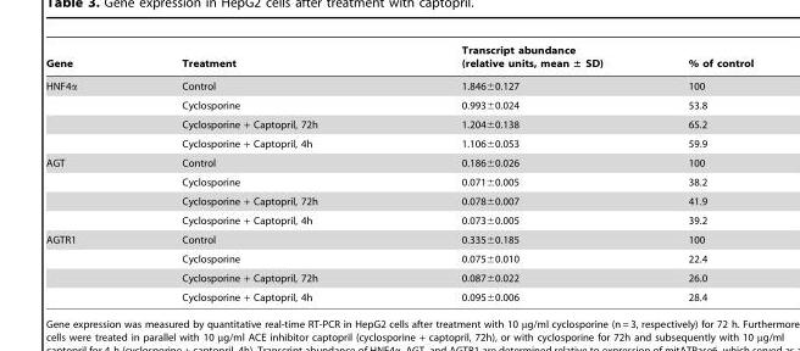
<table><thead><tr><td>Gene</td><td>Treatment</td><td>Transcript abundance (relative units, mean ± SD)</td><td>% of control</td></tr></thead><tbody><tr><td rowspan="4">HNF4α</td><td>Control</td><td>1.846±0.127</td><td>100</td></tr><tr><td>Cyclosporine</td><td>0.993±0.024</td><td>53.8</td></tr><tr><td>Cyclosporine + Captopril, 72h</td><td>1.204±0.138</td><td>65.2</td></tr><tr><td>Cyclosporine + Captopril, 4h</td><td>1.106±0.053</td><td>59.9</td></tr><tr><td rowspan="4">AGT</td><td>Control</td><td>0.186±0.026</td><td>100</td></tr><tr><td>Cyclosporine</td><td>0.071±0.005</td><td>38.2</td></tr><tr><td>Cyclosporine + Captopril, 72h</td><td>0.078±0.007</td><td>41.9</td></tr><tr><td>Cyclosporine + Captopril, 4h</td><td>0.073±0.005</td><td>39.2</td></tr><tr><td rowspan="4">AGTR1</td><td>Control</td><td>0.335±0.185</td><td>100</td></tr><tr><td>Cyclosporine</td><td>0.075±0.010</td><td>22.4</td></tr><tr><td>Cyclosporine + Captopril, 72h</td><td>0.087±0.022</td><td>26.0</td></tr><tr><td>Cyclosporine + Captopril, 4h</td><td>0.095±0.006</td><td>28.4</td></tr></tbody></table>